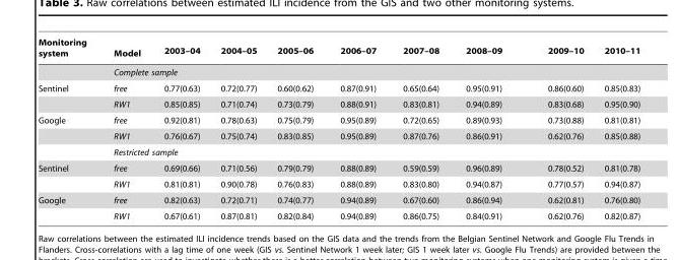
<table><thead><tr><td>Monitoring system</td><td>Model</td><td>2003–04</td><td>2004–05</td><td>2005–06</td><td>2006–07</td><td>2007–08</td><td>2008–09</td><td>2009–10</td><td>2010–11</td></tr></thead><tbody><tr><td></td><td colspan="9">Complete sample</td></tr><tr><td rowspan="2">Sentinel</td><td>free</td><td>0.77(0.63)</td><td>0.72(0.77)</td><td>0.60(0.62)</td><td>0.87(0.91)</td><td>0.65(0.64)</td><td>0.95(0.91)</td><td>0.86(0.60)</td><td>0.85(0.83)</td></tr><tr><td>RW1</td><td>0.85(0.85)</td><td>0.71(0.74)</td><td>0.73(0.79)</td><td>0.88(0.91)</td><td>0.83(0.81)</td><td>0.94(0.89)</td><td>0.83(0.68)</td><td>0.95(0.90)</td></tr><tr><td rowspan="3">Google</td><td>free</td><td>0.92(0.81)</td><td>0.78(0.63)</td><td>0.75(0.79)</td><td>0.95(0.89)</td><td>0.72(0.65)</td><td>0.89(0.93)</td><td>0.73(0.88)</td><td>0.81(0.81)</td></tr><tr><td>RW1</td><td>0.76(0.67)</td><td>0.75(0.74)</td><td>0.83(0.85)</td><td>0.95(0.89)</td><td>0.87(0.76)</td><td>0.86(0.91)</td><td>0.62(0.76)</td><td>0.85(0.88)</td></tr><tr><td colspan="9">Restricted sample</td></tr><tr><td rowspan="2">Sentinel</td><td>free</td><td>0.69(0.66)</td><td>0.71(0.56)</td><td>0.79(0.79)</td><td>0.88(0.89)</td><td>0.59(0.59)</td><td>0.96(0.89)</td><td>0.78(0.52)</td><td>0.81(0.78)</td></tr><tr><td>RW1</td><td>0.81(0.81)</td><td>0.90(0.78)</td><td>0.76(0.83)</td><td>0.88(0.89)</td><td>0.83(0.80)</td><td>0.94(0.87)</td><td>0.77(0.57)</td><td>0.94(0.87)</td></tr><tr><td rowspan="2">Google</td><td>free</td><td>0.82(0.63)</td><td>0.72(0.71)</td><td>0.74(0.77)</td><td>0.94(0.89)</td><td>0.67(0.60)</td><td>0.86(0.94)</td><td>0.62(0.81)</td><td>0.76(0.80)</td></tr><tr><td>RW1</td><td>0.67(0.61)</td><td>0.87(0.81)</td><td>0.82(0.84)</td><td>0.94(0.89)</td><td>0.86(0.75)</td><td>0.84(0.91)</td><td>0.62(0.76)</td><td>0.82(0.87)</td></tr></tbody></table>